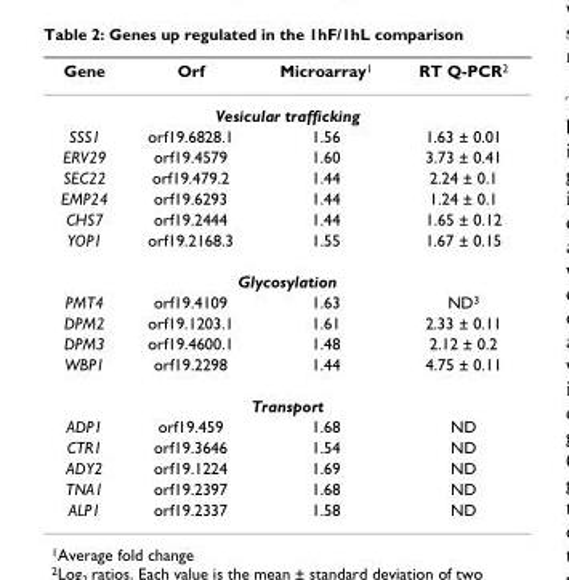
<table><thead><tr><td>Gene</td><td>Orf</td><td>Microarray<sup>1</sup></td><td>RT Q-PCR<sup>2</sup></td></tr></thead><tbody><tr><td colspan="4">Vesicular trafficking</td></tr><tr><td>SSS1</td><td>orf19.6828.1</td><td>1.56</td><td>1.63 ± 0.01</td></tr><tr><td>ERV29</td><td>orf19.4579</td><td>1.60</td><td>3.73 ± 0.41</td></tr><tr><td>SEC22</td><td>orf19.479.2</td><td>1.44</td><td>2.24 ± 0.1</td></tr><tr><td>EMP24</td><td>orf19.6293</td><td>1.44</td><td>1.24 ± 0.1</td></tr><tr><td>CHS7</td><td>orf19.2444</td><td>1.44</td><td>1.65 ± 0.12</td></tr><tr><td>YOP1</td><td>orf19.2168.3</td><td>1.55</td><td>1.67 ± 0.15</td></tr><tr><td colspan="4">Glycosylation</td></tr><tr><td>PMT4</td><td>orf19.4109</td><td>1.63</td><td>ND<sup>3</sup></td></tr><tr><td>DPM2</td><td>orf19.1203.1</td><td>1.61</td><td>2.33 ± 0.11</td></tr><tr><td>DPM3</td><td>orf19.4600.1</td><td>1.48</td><td>2.12 ± 0.2</td></tr><tr><td>WBP1</td><td>orf19.2298</td><td>1.44</td><td>4.75 ± 0.11</td></tr><tr><td colspan="4">Transport</td></tr><tr><td>ADP1</td><td>orf19.459</td><td>1.68</td><td>ND</td></tr><tr><td>CTR1</td><td>orf19.3646</td><td>1.54</td><td>ND</td></tr><tr><td>ADY2</td><td>orf19.1224</td><td>1.69</td><td>ND</td></tr><tr><td>TNA1</td><td>orf19.2397</td><td>1.68</td><td>ND</td></tr><tr><td>ALP1</td><td>orf19.2337</td><td>1.58</td><td>ND</td></tr></tbody></table>